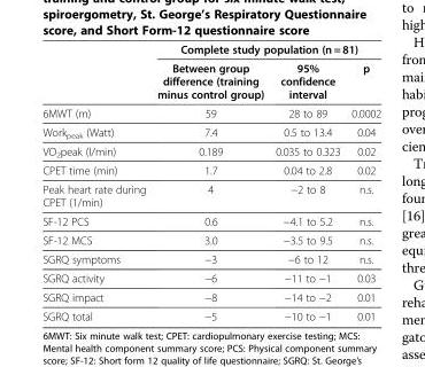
<table><thead><tr><td rowspan="2"></td><td colspan="3">Complete study population (n = 81)</td></tr><tr><td>Between group difference (training minus control group)</td><td>95% confidence interval</td><td>p</td></tr></thead><tbody><tr><td>6MWT (m)</td><td>59</td><td>28 to 89</td><td>0.0002</td></tr><tr><td>Work<sub>peak</sub> (Watt)</td><td>7.4</td><td>0.5 to 13.4</td><td>0.04</td></tr><tr><td>VO<sub>2</sub>peak (l/min)</td><td>0.189</td><td>0.035 to 0.323</td><td>0.02</td></tr><tr><td>CPET time (min)</td><td>1.7</td><td>0.04 to 2.8</td><td>0.02</td></tr><tr><td>Peak heart rate during CPET (1/min)</td><td>4</td><td>−2 to 8</td><td>n.s.</td></tr><tr><td>SF-12 PCS</td><td>0.6</td><td>−4.1 to 5.2</td><td>n.s.</td></tr><tr><td>SF-12 MCS</td><td>3.0</td><td>−3.5 to 9.5</td><td>n.s.</td></tr><tr><td>SGRQ symptoms</td><td>−3</td><td>−6 to 12</td><td>n.s.</td></tr><tr><td>SGRQ activity</td><td>−6</td><td>−11 to −1</td><td>0.03</td></tr><tr><td>SGRQ impact</td><td>−8</td><td>−14 to −2</td><td>0.01</td></tr><tr><td>SGRQ total</td><td>−5</td><td>−10 to −1</td><td>0.01</td></tr></tbody></table>